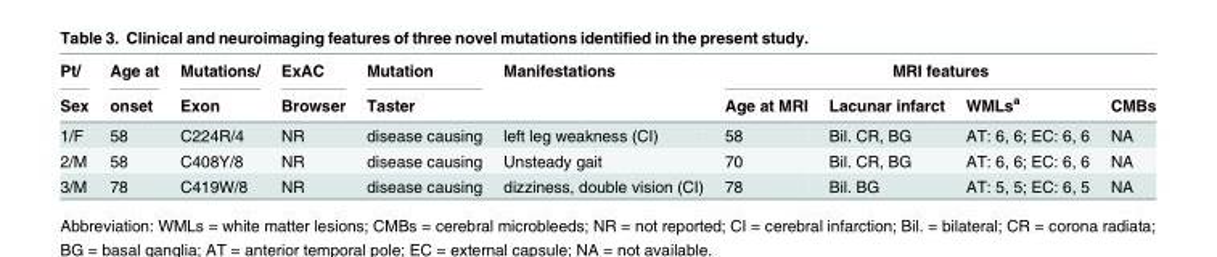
<table><thead><tr><td rowspan="2">Pt/ Sex</td><td rowspan="2">Age at onset</td><td rowspan="2">Mutations/ Exon</td><td rowspan="2">ExAC Browser</td><td rowspan="2">Mutation Taster</td><td rowspan="2">Manifestations</td><td colspan="4">MRI features</td></tr><tr><td>Age at MRI</td><td>Lacunar infarct</td><td>WMLs<sup>a</sup></td><td>CMBs</td></tr></thead><tbody><tr><td>1/F</td><td>58</td><td>C224R/4</td><td>NR</td><td>disease causing</td><td>left leg weakness (CI)</td><td>58</td><td>Bil. CR, BG</td><td>AT: 6, 6; EC: 6, 6</td><td>NA</td></tr><tr><td>2/M</td><td>58</td><td>C408Y/8</td><td>NR</td><td>disease causing</td><td>Unsteady gait</td><td>70</td><td>Bil. CR, BG</td><td>AT: 6, 6; EC: 6, 6</td><td>NA</td></tr><tr><td>3/M</td><td>78</td><td>C419W/8</td><td>NR</td><td>disease causing</td><td>dizziness, double vision (CI)</td><td>78</td><td>Bil. BG</td><td>AT: 5, 5; EC: 6, 5</td><td>NA</td></tr></tbody></table>